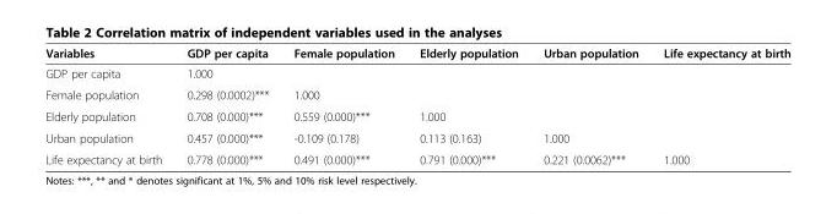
<table><thead><tr><td>Variables</td><td>GDP per capita</td><td>Female population</td><td>Elderly population</td><td>Urban population</td><td>Life expectancy at birth</td></tr></thead><tbody><tr><td>GDP per capita</td><td>1.000</td><td></td><td></td><td></td><td></td></tr><tr><td>Female population</td><td>0.298 (0.0002)***</td><td>1.000</td><td></td><td></td><td></td></tr><tr><td>Elderly population</td><td>0.708 (0.000)***</td><td>0.559 (0.000)***</td><td>1.000</td><td></td><td></td></tr><tr><td>Urban population</td><td>0.457 (0.000)***</td><td>-0.109 (0.178)</td><td>0.113 (0.163)</td><td>1.000</td><td></td></tr><tr><td>Life expectancy at birth</td><td>0.778 (0.000)***</td><td>0.491 (0.000)***</td><td>0.791 (0.000)***</td><td>0.221 (0.0062)***</td><td>1.000</td></tr></tbody></table>